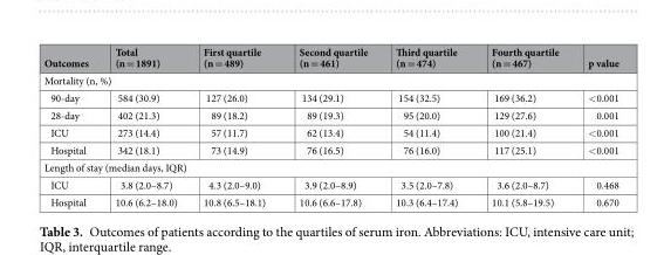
<table><thead><tr><td>Outcomes</td><td>Total (n = 1891)</td><td>First quartile (n = 489)</td><td>Second quartile (n = 461)</td><td>Third quartile (n = 474)</td><td>Fourth quartile (n = 467)</td><td>p value</td></tr></thead><tbody><tr><td colspan="7">Mortality (n, %)</td></tr><tr><td>90-day</td><td>584 (30.9)</td><td>127 (26.0)</td><td>134 (29.1)</td><td>154 (32.5)</td><td>169 (36.2)</td><td>&lt;0.001</td></tr><tr><td>28-day</td><td>402 (21.3)</td><td>89 (18.2)</td><td>89 (19.3)</td><td>95 (20.0)</td><td>129 (27.6)</td><td>0.001</td></tr><tr><td>ICU</td><td>273 (14.4)</td><td>57 (11.7)</td><td>62 (13.4)</td><td>54 (11.4)</td><td>100 (21.4)</td><td>&lt;0.001</td></tr><tr><td>Hospital</td><td>342 (18.1)</td><td>73 (14.9)</td><td>76 (16.5)</td><td>76 (16.0)</td><td>117 (25.1)</td><td>&lt;0.001</td></tr><tr><td colspan="7">Length of stay (median days, IQR)</td></tr><tr><td>ICU</td><td>3.8 (2.0–8.7)</td><td>4.3 (2.0–9.0)</td><td>3.9 (2.0–8.9)</td><td>3.5 (2.0–7.8)</td><td>3.6 (2.0–8.7)</td><td>0.468</td></tr><tr><td>Hospital</td><td>10.6 (6.2–18.0)</td><td>10.8 (6.5–18.1)</td><td>10.6 (6.6–17.8)</td><td>10.3 (6.4–17.4)</td><td>10.1 (5.8–19.5)</td><td>0.670</td></tr></tbody></table>